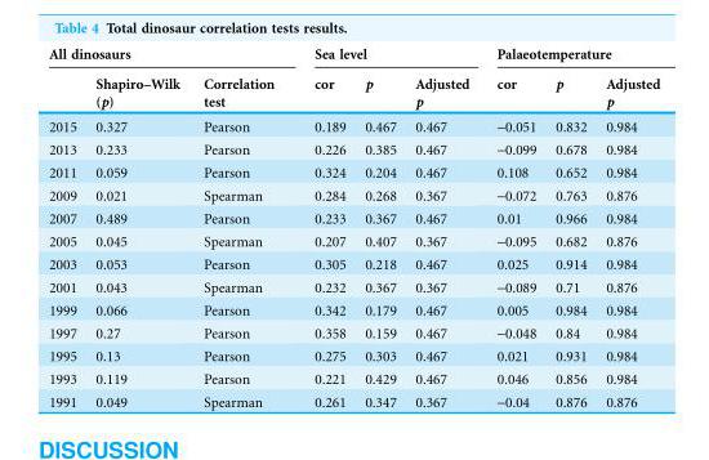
<table><thead><tr><td colspan="3">All dinosaurs</td><td colspan="3">Sea level</td><td colspan="3">Palaeotemperature</td></tr><tr><td></td><td>Shapiro–Wilk (p)</td><td>Correlation test</td><td>cor</td><td>p</td><td>Adjusted p</td><td>cor</td><td>p</td><td>Adjusted p</td></tr></thead><tbody><tr><td>2015</td><td>0.327</td><td>Pearson</td><td>0.189</td><td>0.467</td><td>0.467</td><td>-0.051</td><td>0.832</td><td>0.984</td></tr><tr><td>2013</td><td>0.233</td><td>Pearson</td><td>0.226</td><td>0.385</td><td>0.467</td><td>-0.099</td><td>0.678</td><td>0.984</td></tr><tr><td>2011</td><td>0.059</td><td>Pearson</td><td>0.324</td><td>0.204</td><td>0.467</td><td>0.108</td><td>0.652</td><td>0.984</td></tr><tr><td>2009</td><td>0.021</td><td>Spearman</td><td>0.284</td><td>0.268</td><td>0.367</td><td>-0.072</td><td>0.763</td><td>0.876</td></tr><tr><td>2007</td><td>0.489</td><td>Pearson</td><td>0.233</td><td>0.367</td><td>0.467</td><td>0.01</td><td>0.966</td><td>0.984</td></tr><tr><td>2005</td><td>0.045</td><td>Spearman</td><td>0.207</td><td>0.407</td><td>0.367</td><td>-0.095</td><td>0.682</td><td>0.876</td></tr><tr><td>2003</td><td>0.053</td><td>Pearson</td><td>0.305</td><td>0.218</td><td>0.467</td><td>0.025</td><td>0.914</td><td>0.984</td></tr><tr><td>2001</td><td>0.043</td><td>Spearman</td><td>0.232</td><td>0.367</td><td>0.367</td><td>-0.089</td><td>0.71</td><td>0.876</td></tr><tr><td>1999</td><td>0.066</td><td>Pearson</td><td>0.342</td><td>0.179</td><td>0.467</td><td>0.005</td><td>0.984</td><td>0.984</td></tr><tr><td>1997</td><td>0.27</td><td>Pearson</td><td>0.358</td><td>0.159</td><td>0.467</td><td>-0.048</td><td>0.84</td><td>0.984</td></tr><tr><td>1995</td><td>0.13</td><td>Pearson</td><td>0.275</td><td>0.303</td><td>0.467</td><td>0.021</td><td>0.931</td><td>0.984</td></tr><tr><td>1993</td><td>0.119</td><td>Pearson</td><td>0.221</td><td>0.429</td><td>0.467</td><td>0.046</td><td>0.856</td><td>0.984</td></tr><tr><td>1991</td><td>0.049</td><td>Spearman</td><td>0.261</td><td>0.347</td><td>0.367</td><td>-0.04</td><td>0.876</td><td>0.876</td></tr></tbody></table>